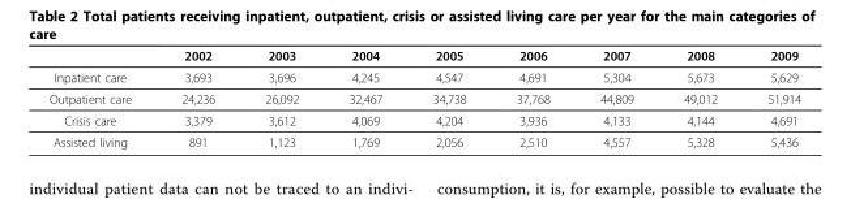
<table><thead><tr><td></td><td>2002</td><td>2003</td><td>2004</td><td>2005</td><td>2006</td><td>2007</td><td>2008</td><td>2009</td></tr></thead><tbody><tr><td>Inpatient care</td><td>3,693</td><td>3,696</td><td>4,245</td><td>4,547</td><td>4,691</td><td>5,304</td><td>5,673</td><td>5,629</td></tr><tr><td>Outpatient care</td><td>24,236</td><td>26,092</td><td>32,467</td><td>34,738</td><td>37,768</td><td>44,809</td><td>49,012</td><td>51,914</td></tr><tr><td>Crisis care</td><td>3,379</td><td>3,612</td><td>4,069</td><td>4,204</td><td>3,936</td><td>4,133</td><td>4,144</td><td>4,691</td></tr><tr><td>Assisted living</td><td>891</td><td>1,123</td><td>1,769</td><td>2,056</td><td>2,510</td><td>4,557</td><td>5,328</td><td>5,436</td></tr></tbody></table>